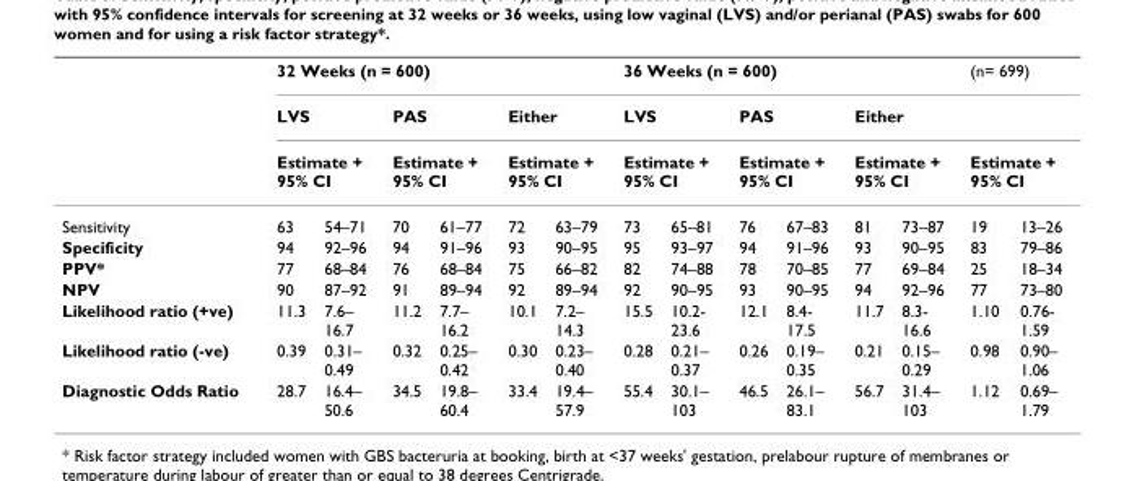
<table><thead><tr><td rowspan="4">Sensitivity</td><td colspan="6">32 Weeks (n = 600)</td><td colspan="6">36 Weeks (n = 600)</td><td colspan="2">(n= 699)</td></tr><tr><td rowspan="2" colspan="2">LVS Estimate + 95% CI</td><td rowspan="2" colspan="2">PAS Estimate + 95% CI</td><td rowspan="2" colspan="2">Either Estimate + 95% CI</td><td rowspan="2" colspan="2">LVS Estimate + 95% CI</td><td rowspan="2" colspan="2">PAS Estimate + 95% CI</td><td rowspan="2" colspan="2">Either Estimate + 95% CI</td><td></td><td></td></tr><tr><td colspan="2">Estimate + 95% CI</td></tr><tr><td>63</td><td>54–71</td><td>70</td><td>61–77</td><td>72</td><td>63–79</td><td>73</td><td>65–81</td><td>76</td><td>67–83</td><td>81</td><td>73–87</td><td>19</td><td>13–26</td></tr></thead><tbody><tr><td>Specificity</td><td>94</td><td>92–96</td><td>94</td><td>91–96</td><td>93</td><td>90–95</td><td>95</td><td>93–97</td><td>94</td><td>91–96</td><td>93</td><td>90–95</td><td>83</td><td>79–86</td></tr><tr><td>PPV*</td><td>77</td><td>68–84</td><td>76</td><td>68–84</td><td>75</td><td>66–82</td><td>82</td><td>74–88</td><td>78</td><td>70–85</td><td>77</td><td>69–84</td><td>25</td><td>18–34</td></tr><tr><td>NPV</td><td>90</td><td>87–92</td><td>91</td><td>89–94</td><td>92</td><td>89–94</td><td>92</td><td>90–95</td><td>93</td><td>90–95</td><td>94</td><td>92–96</td><td>77</td><td>73–80</td></tr><tr><td>Likelihood ratio (+ve)</td><td>11.3</td><td>7.6– 16.7</td><td>11.2</td><td>7.7– 16.2</td><td>10.1</td><td>7.2– 14.3</td><td>15.5</td><td>10.2- 23.6</td><td>12.1</td><td>8.4- 17.5</td><td>11.7</td><td>8.3- 16.6</td><td>1.10</td><td>0.76- 1.59</td></tr><tr><td>Likelihood ratio (-ve)</td><td>0.39</td><td>0.31– 0.49</td><td>0.32</td><td>0.25– 0.42</td><td>0.30</td><td>0.23– 0.40</td><td>0.28</td><td>0.21– 0.37</td><td>0.26</td><td>0.19– 0.35</td><td>0.21</td><td>0.15– 0.29</td><td>0.98</td><td>0.90– 1.06</td></tr><tr><td>Diagnostic Odds Ratio</td><td>28.7</td><td>16.4– 50.6</td><td>34.5</td><td>19.8– 60.4</td><td>33.4</td><td>19.4– 57.9</td><td>55.4</td><td>30.1– 103</td><td>46.5</td><td>26.1– 83.1</td><td>56.7</td><td>31.4– 103</td><td>1.12</td><td>0.69– 1.79</td></tr></tbody></table>